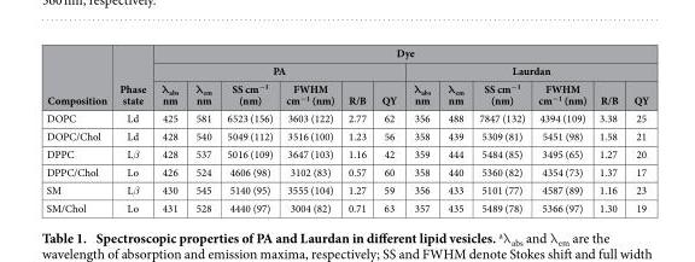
<table><thead><tr><td rowspan="3">Composition</td><td rowspan="3">Phase state</td><td colspan="12">Dye</td></tr><tr><td colspan="6">PA</td><td colspan="6">Laurdan</td></tr><tr><td>λ<sub>abs</sub> nm</td><td>λ<sub>em</sub> nm</td><td>SS cm<sup>−1</sup> (nm)</td><td>FWHM cm<sup>−1</sup> (nm)</td><td>R/B</td><td>QY</td><td>λ<sub>abs</sub> nm</td><td>λ<sub>em</sub> nm</td><td>SS cm<sup>−1</sup> (nm)</td><td>FWHM cm<sup>−1</sup> (nm)</td><td>R/B</td><td>QY</td></tr></thead><tbody><tr><td>DOPC</td><td>Ld</td><td>425</td><td>581</td><td>6523 (156)</td><td>3603 (122)</td><td>2.77</td><td>62</td><td>356</td><td>488</td><td>7847 (132)</td><td>4394 (109)</td><td>3.38</td><td>25</td></tr><tr><td>DOPC/Chol</td><td>Ld</td><td>428</td><td>540</td><td>5049 (112)</td><td>3516 (100)</td><td>1.23</td><td>56</td><td>358</td><td>439</td><td>5309 (81)</td><td>5451 (98)</td><td>1.58</td><td>21</td></tr><tr><td>DPPC</td><td>Lβ</td><td>428</td><td>537</td><td>5016 (109)</td><td>3647 (103)</td><td>1.16</td><td>42</td><td>359</td><td>444</td><td>5484 (85)</td><td>3495 (65)</td><td>1.27</td><td>20</td></tr><tr><td>DPPC/Chol</td><td>Lo</td><td>426</td><td>524</td><td>4606 (98)</td><td>3102 (83)</td><td>0.57</td><td>60</td><td>358</td><td>440</td><td>5360 (82)</td><td>4354 (73)</td><td>1.37</td><td>17</td></tr><tr><td>SM</td><td>Lβ</td><td>430</td><td>545</td><td>5140 (95)</td><td>3555 (104)</td><td>1.27</td><td>59</td><td>356</td><td>433</td><td>5101 (77)</td><td>4587 (89)</td><td>1.16</td><td>23</td></tr><tr><td>SM/Chol</td><td>Lo</td><td>431</td><td>528</td><td>4440 (97)</td><td>3004 (82)</td><td>0.71</td><td>63</td><td>357</td><td>435</td><td>5489 (78)</td><td>5366 (97)</td><td>1.30</td><td>19</td></tr></tbody></table>